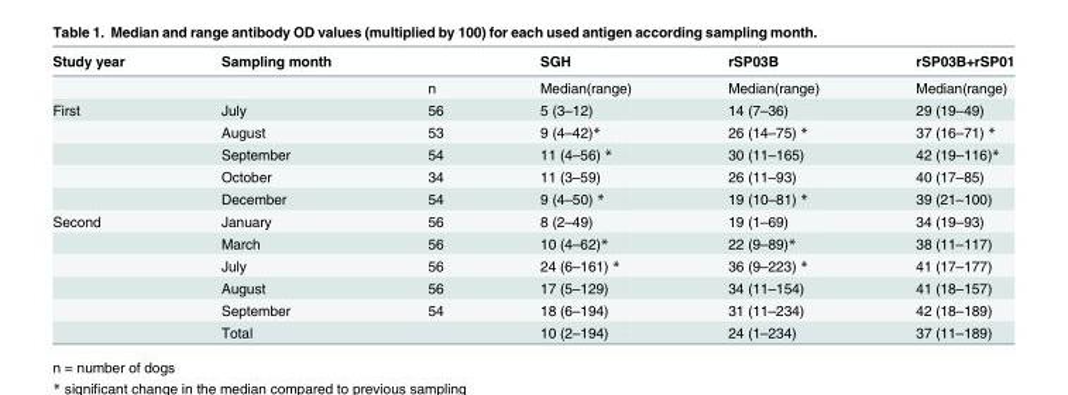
<table><thead><tr><td>Study year</td><td>Sampling month</td><td></td><td>SGH</td><td>rSP03B</td><td>rSP03B+rSP01</td></tr></thead><tbody><tr><td></td><td></td><td>n</td><td>Median(range)</td><td>Median(range)</td><td>Median(range)</td></tr><tr><td rowspan="5">First</td><td>July</td><td>56</td><td>5 (3–12)</td><td>14 (7–36)</td><td>29 (19–49)</td></tr><tr><td>August</td><td>53</td><td>9 (4–42)*</td><td>26 (14–75) *</td><td>37 (16–71) *</td></tr><tr><td>September</td><td>54</td><td>11 (4–56) *</td><td>30 (11–165)</td><td>42 (19–116)*</td></tr><tr><td>October</td><td>34</td><td>11 (3–59)</td><td>26 (11–93)</td><td>40 (17–85)</td></tr><tr><td>December</td><td>54</td><td>9 (4–50) *</td><td>19 (10–81) *</td><td>39 (21–100)</td></tr><tr><td rowspan="6">Second</td><td>January</td><td>56</td><td>8 (2–49)</td><td>19 (1–69)</td><td>34 (19–93)</td></tr><tr><td>March</td><td>56</td><td>10 (4–62)*</td><td>22 (9–89)*</td><td>38 (11–117)</td></tr><tr><td>July</td><td>56</td><td>24 (6–161) *</td><td>36 (9–223) *</td><td>41 (17–177)</td></tr><tr><td>August</td><td>56</td><td>17 (5–129)</td><td>34 (11–154)</td><td>41 (18–157)</td></tr><tr><td>September</td><td>54</td><td>18 (6–194)</td><td>31 (11–234)</td><td>42 (18–189)</td></tr><tr><td>Total</td><td></td><td>10 (2–194)</td><td>24 (1–234)</td><td>37 (11–189)</td></tr></tbody></table>